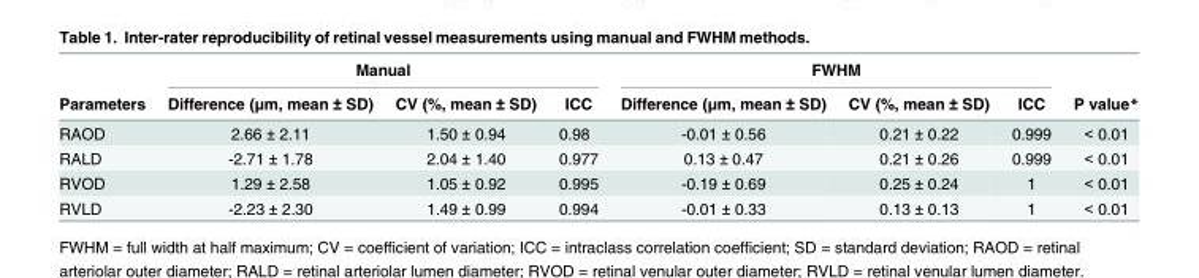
<table><thead><tr><td rowspan="2">Parameters</td><td colspan="3">Manual</td><td colspan="3">FWHM</td><td rowspan="2">P value*</td></tr><tr><td>Difference (μm, mean ± SD)</td><td>CV (%, mean ± SD)</td><td>ICC</td><td>Difference (μm, mean ± SD)</td><td>CV (%, mean ± SD)</td><td>ICC</td></tr></thead><tbody><tr><td>RAOD</td><td>2.66 ± 2.11</td><td>1.50 ± 0.94</td><td>0.98</td><td>-0.01 ± 0.56</td><td>0.21 ± 0.22</td><td>0.999</td><td>&lt; 0.01</td></tr><tr><td>RALD</td><td>-2.71 ± 1.78</td><td>2.04 ± 1.40</td><td>0.977</td><td>0.13 ± 0.47</td><td>0.21 ± 0.26</td><td>0.999</td><td>&lt; 0.01</td></tr><tr><td>RVOD</td><td>1.29 ± 2.58</td><td>1.05 ± 0.92</td><td>0.995</td><td>-0.19 ± 0.69</td><td>0.25 ± 0.24</td><td>1</td><td>&lt; 0.01</td></tr><tr><td>RVLD</td><td>-2.23 ± 2.30</td><td>1.49 ± 0.99</td><td>0.994</td><td>-0.01 ± 0.33</td><td>0.13 ± 0.13</td><td>1</td><td>&lt; 0.01</td></tr></tbody></table>